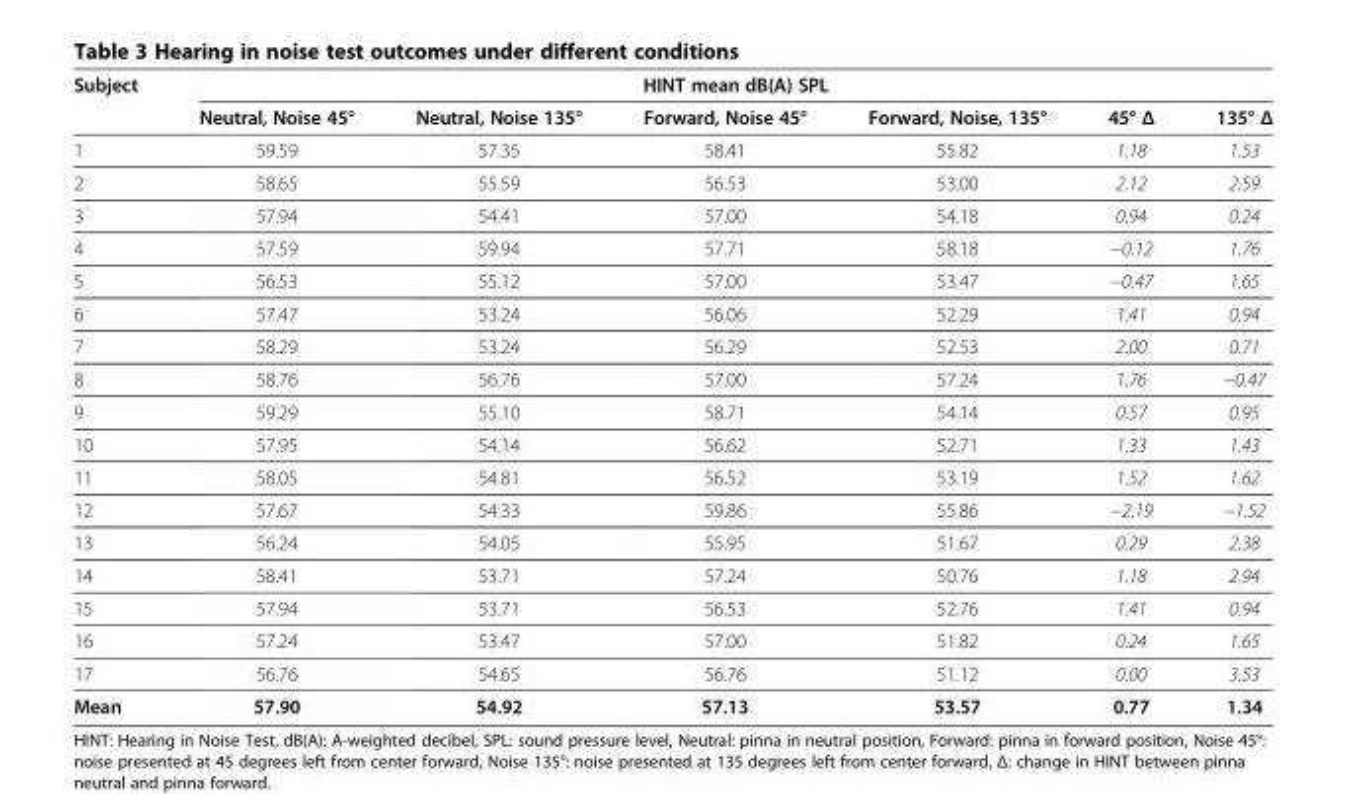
<table><thead><tr><td rowspan="2">Subject</td><td colspan="6">HINT mean dB(A) SPL</td></tr><tr><td>Neutral, Noise 45°</td><td>Neutral, Noise 135°</td><td>Forward, Noise 45°</td><td>Forward, Noise, 135°</td><td>45° Δ</td><td>135° Δ</td></tr></thead><tbody><tr><td>1</td><td>59.59</td><td>57.35</td><td>58.41</td><td>55.82</td><td>1.18</td><td>1.53</td></tr><tr><td>2</td><td>58.65</td><td>55.59</td><td>56.53</td><td>53.00</td><td>2.12</td><td>2.59</td></tr><tr><td>3</td><td>57.94</td><td>54.41</td><td>57.00</td><td>54.18</td><td>0.94</td><td>0.24</td></tr><tr><td>4</td><td>57.59</td><td>59.94</td><td>57.71</td><td>58.18</td><td>−0.12</td><td>1.76</td></tr><tr><td>5</td><td>56.53</td><td>55.12</td><td>57.00</td><td>53.47</td><td>−0.47</td><td>1.65</td></tr><tr><td>6</td><td>57.47</td><td>53.24</td><td>56.06</td><td>52.29</td><td>1.41</td><td>0.94</td></tr><tr><td>7</td><td>58.29</td><td>53.24</td><td>56.29</td><td>52.53</td><td>2.00</td><td>0.71</td></tr><tr><td>8</td><td>58.76</td><td>56.76</td><td>57.00</td><td>57.24</td><td>1.76</td><td>−0.47</td></tr><tr><td>9</td><td>59.29</td><td>55.10</td><td>58.71</td><td>54.14</td><td>0.57</td><td>0.95</td></tr><tr><td>10</td><td>57.95</td><td>54.14</td><td>56.62</td><td>52.71</td><td>1.33</td><td>1.43</td></tr><tr><td>11</td><td>58.05</td><td>54.81</td><td>56.52</td><td>53.19</td><td>1.52</td><td>1.62</td></tr><tr><td>12</td><td>57.67</td><td>54.33</td><td>59.86</td><td>55.86</td><td>−2.19</td><td>−1.52</td></tr><tr><td>13</td><td>56.24</td><td>54.05</td><td>55.95</td><td>51.67</td><td>0.29</td><td>2.38</td></tr><tr><td>14</td><td>58.41</td><td>53.71</td><td>57.24</td><td>50.76</td><td>1.18</td><td>2.94</td></tr><tr><td>15</td><td>57.94</td><td>53.71</td><td>56.53</td><td>52.76</td><td>1.41</td><td>0.94</td></tr><tr><td>16</td><td>57.24</td><td>53.47</td><td>57.00</td><td>51.82</td><td>0.24</td><td>1.65</td></tr><tr><td>17</td><td>56.76</td><td>54.65</td><td>56.76</td><td>51.12</td><td>0.00</td><td>3.53</td></tr><tr><td>Mean</td><td>57.90</td><td>54.92</td><td>57.13</td><td>53.57</td><td>0.77</td><td>1.34</td></tr></tbody></table>